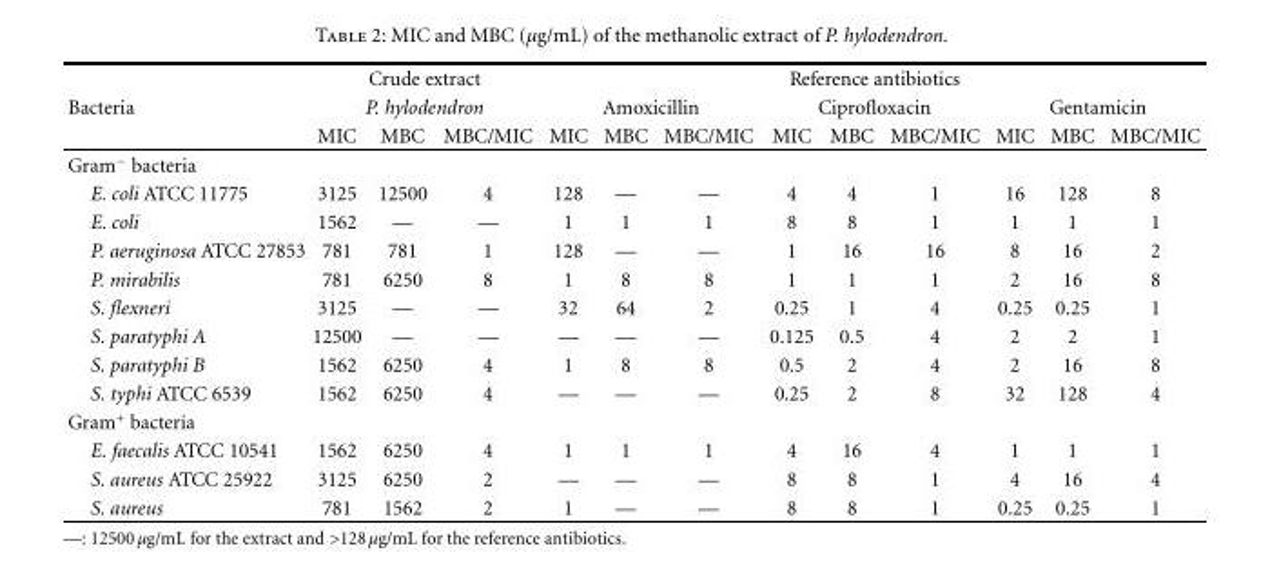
<table><thead><tr><td rowspan="3">Bacteria</td><td rowspan="2" colspan="3">Crude extract P. hylodendron</td><td colspan="9">Reference antibiotics</td></tr><tr><td colspan="3">Amoxicillin</td><td colspan="3">Ciprofloxacin</td><td colspan="3">Gentamicin</td></tr><tr><td>MIC</td><td>MBC</td><td>MBC/MIC</td><td>MIC</td><td>MBC</td><td>MBC/MIC</td><td>MIC</td><td>MBC</td><td>MBC/MIC</td><td>MIC</td><td>MBC</td><td>MBC/MIC</td></tr></thead><tbody><tr><td colspan="13">Gram<sup>−</sup> bacteria</td></tr><tr><td>E. coli ATCC 11775</td><td>3125</td><td>12500</td><td>4</td><td>128</td><td>—</td><td>—</td><td>4</td><td>4</td><td>1</td><td>16</td><td>128</td><td>8</td></tr><tr><td>E. coli</td><td>1562</td><td>—</td><td>—</td><td>1</td><td>1</td><td>1</td><td>8</td><td>8</td><td>1</td><td>1</td><td>1</td><td>1</td></tr><tr><td>P. aeruginosa ATCC 27853</td><td>781</td><td>781</td><td>1</td><td>128</td><td>—</td><td>—</td><td>1</td><td>16</td><td>16</td><td>8</td><td>16</td><td>2</td></tr><tr><td>P. mirabilis</td><td>781</td><td>6250</td><td>8</td><td>1</td><td>8</td><td>8</td><td>1</td><td>1</td><td>1</td><td>2</td><td>16</td><td>8</td></tr><tr><td>S. flexneri</td><td>3125</td><td>—</td><td>—</td><td>32</td><td>64</td><td>2</td><td>0.25</td><td>1</td><td>4</td><td>0.25</td><td>0.25</td><td>1</td></tr><tr><td>S. paratyphi A</td><td>12500</td><td>—</td><td>—</td><td>—</td><td>—</td><td>—</td><td>0.125</td><td>0.5</td><td>4</td><td>2</td><td>2</td><td>1</td></tr><tr><td>S. paratyphi B</td><td>1562</td><td>6250</td><td>4</td><td>1</td><td>8</td><td>8</td><td>0.5</td><td>2</td><td>4</td><td>2</td><td>16</td><td>8</td></tr><tr><td>S. typhi ATCC 6539</td><td>1562</td><td>6250</td><td>4</td><td>—</td><td>—</td><td>—</td><td>0.25</td><td>2</td><td>8</td><td>32</td><td>128</td><td>4</td></tr><tr><td colspan="13">Gram<sup>+</sup> bacteria</td></tr><tr><td>E. faecalis ATCC 10541</td><td>1562</td><td>6250</td><td>4</td><td>1</td><td>1</td><td>1</td><td>4</td><td>16</td><td>4</td><td>1</td><td>1</td><td>1</td></tr><tr><td>S. aureus ATCC 25922</td><td>3125</td><td>6250</td><td>2</td><td>—</td><td>—</td><td>—</td><td>8</td><td>8</td><td>1</td><td>4</td><td>16</td><td>4</td></tr><tr><td>S. aureus</td><td>781</td><td>1562</td><td>2</td><td>1</td><td>—</td><td>—</td><td>8</td><td>8</td><td>1</td><td>0.25</td><td>0.25</td><td>1</td></tr></tbody></table>